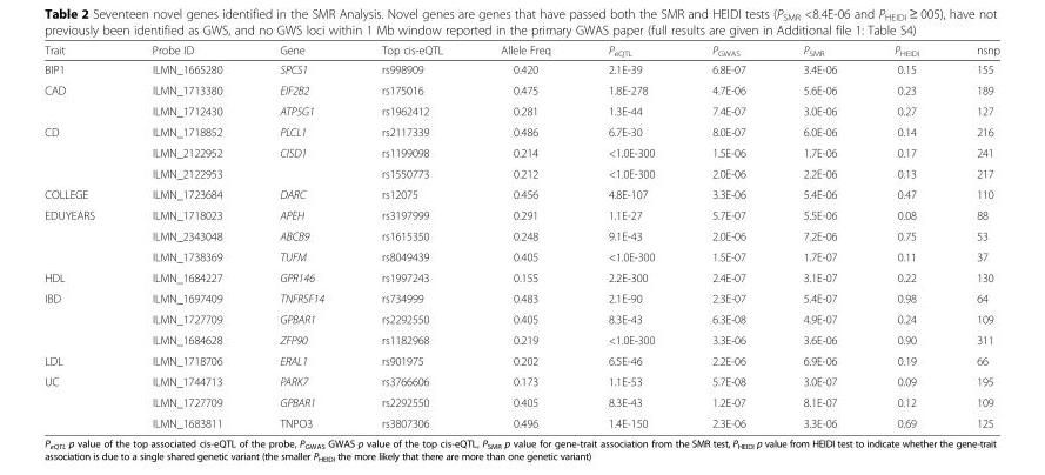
<table><thead><tr><td>Trait</td><td>Probe ID</td><td>Gene</td><td>Top cis-eQTL</td><td>Allele Freq</td><td>P<sub>eQTL</sub></td><td>P<sub>GWAS</sub></td><td>P<sub>SMR</sub></td><td>P<sub>HEIDI</sub></td><td>nsnp</td></tr></thead><tbody><tr><td>BIP1</td><td>ILMN_1665280</td><td>SPCS1</td><td>rs998909</td><td>0.420</td><td>2.1E-39</td><td>6.8E-07</td><td>3.4E-06</td><td>0.15</td><td>155</td></tr><tr><td rowspan="2">CAD</td><td>ILMN_1713380</td><td>EIF2B2</td><td>rs175016</td><td>0.475</td><td>1.8E-278</td><td>4.7E-06</td><td>5.6E-06</td><td>0.23</td><td>189</td></tr><tr><td>ILMN_1712430</td><td>ATP5G1</td><td>rs1962412</td><td>0.281</td><td>1.3E-44</td><td>7.4E-07</td><td>3.0E-06</td><td>0.27</td><td>127</td></tr><tr><td rowspan="3">CD</td><td>ILMN_1718852</td><td>PLCL1</td><td>rs2117339</td><td>0.486</td><td>6.7E-30</td><td>8.0E-07</td><td>6.0E-06</td><td>0.14</td><td>216</td></tr><tr><td>ILMN_2122952</td><td rowspan="2">CISD1</td><td>rs1199098</td><td>0.214</td><td>&lt;1.0E-300</td><td>1.5E-06</td><td>1.7E-06</td><td>0.17</td><td>241</td></tr><tr><td>ILMN_2122953</td><td>rs1550773</td><td>0.212</td><td>&lt;1.0E-300</td><td>2.0E-06</td><td>2.2E-06</td><td>0.13</td><td>217</td></tr><tr><td>COLLEGE</td><td>ILMN_1723684</td><td>DARC</td><td>rs12075</td><td>0.456</td><td>4.8E-107</td><td>3.3E-06</td><td>5.4E-06</td><td>0.47</td><td>110</td></tr><tr><td rowspan="3">EDUYEARS</td><td>ILMN_1718023</td><td>APEH</td><td>rs3197999</td><td>0.291</td><td>1.1E-27</td><td>5.7E-07</td><td>5.5E-06</td><td>0.08</td><td>88</td></tr><tr><td>ILMN_2343048</td><td>ABCB9</td><td>rs1615350</td><td>0.248</td><td>9.1E-43</td><td>2.0E-06</td><td>7.2E-06</td><td>0.75</td><td>53</td></tr><tr><td>ILMN_1738369</td><td>TUFM</td><td>rs8049439</td><td>0.405</td><td>&lt;1.0E-300</td><td>1.5E-07</td><td>1.7E-07</td><td>0.11</td><td>37</td></tr><tr><td>HDL</td><td>ILMN_1684227</td><td>GPR146</td><td>rs1997243</td><td>0.155</td><td>2.2E-300</td><td>2.4E-07</td><td>3.1E-07</td><td>0.22</td><td>130</td></tr><tr><td rowspan="3">IBD</td><td>ILMN_1697409</td><td>TNFRSF14</td><td>rs734999</td><td>0.483</td><td>2.1E-90</td><td>2.3E-07</td><td>5.4E-07</td><td>0.98</td><td>64</td></tr><tr><td>ILMN_1727709</td><td>GPBAR1</td><td>rs2292550</td><td>0.405</td><td>8.3E-43</td><td>6.3E-08</td><td>4.9E-07</td><td>0.24</td><td>109</td></tr><tr><td>ILMN_1684628</td><td>ZFP90</td><td>rs1182968</td><td>0.219</td><td>&lt;1.0E-300</td><td>3.3E-06</td><td>3.6E-06</td><td>0.90</td><td>311</td></tr><tr><td>LDL</td><td>ILMN_1718706</td><td>ERAL1</td><td>rs901975</td><td>0.202</td><td>6.5E-46</td><td>2.2E-06</td><td>6.9E-06</td><td>0.19</td><td>66</td></tr><tr><td rowspan="3">UC</td><td>ILMN_1744713</td><td>PARK7</td><td>rs3766606</td><td>0.173</td><td>1.1E-53</td><td>5.7E-08</td><td>3.0E-07</td><td>0.09</td><td>195</td></tr><tr><td>ILMN_1727709</td><td>GPBAR1</td><td>rs2292550</td><td>0.405</td><td>8.3E-43</td><td>1.2E-07</td><td>8.1E-07</td><td>0.12</td><td>109</td></tr><tr><td>ILMN_1683811</td><td>TNPO3</td><td>rs3807306</td><td>0.496</td><td>1.4E-150</td><td>2.3E-06</td><td>3.3E-06</td><td>0.69</td><td>125</td></tr></tbody></table>